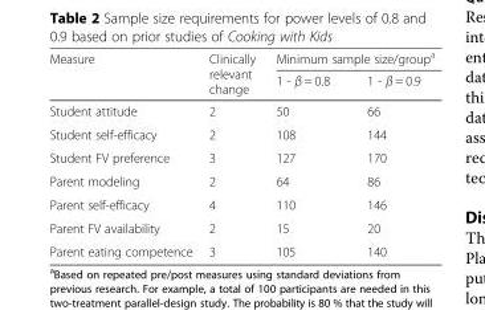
<table><thead><tr><td rowspan="2">Measure</td><td rowspan="2">Clinically relevant change</td><td colspan="2">Minimum sample size/group<sup>a</sup></td></tr><tr><td>1 - β = 0.8</td><td>1 - β = 0.9</td></tr></thead><tbody><tr><td>Student attitude</td><td>2</td><td>50</td><td>66</td></tr><tr><td>Student self-efficacy</td><td>2</td><td>108</td><td>144</td></tr><tr><td>Student FV preference</td><td>3</td><td>127</td><td>170</td></tr><tr><td>Parent modeling</td><td>2</td><td>64</td><td>86</td></tr><tr><td>Parent self-efficacy</td><td>4</td><td>110</td><td>146</td></tr><tr><td>Parent FV availability</td><td>2</td><td>15</td><td>20</td></tr><tr><td>Parent eating competence</td><td>3</td><td>105</td><td>140</td></tr></tbody></table>